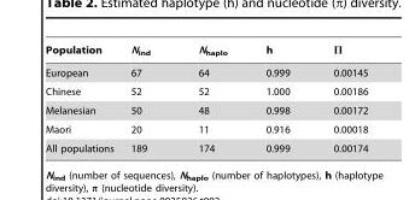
<table><thead><tr><td>Population</td><td>N<sub>ind</sub></td><td>N<sub>haplo</sub></td><td>h</td><td>Π</td></tr></thead><tbody><tr><td>European</td><td>67</td><td>64</td><td>0.999</td><td>0.00145</td></tr><tr><td>Chinese</td><td>52</td><td>52</td><td>1.000</td><td>0.00186</td></tr><tr><td>Melanesian</td><td>50</td><td>48</td><td>0.998</td><td>0.00172</td></tr><tr><td>Maori</td><td>20</td><td>11</td><td>0.916</td><td>0.00018</td></tr><tr><td>All populations</td><td>189</td><td>174</td><td>0.999</td><td>0.00174</td></tr></tbody></table>